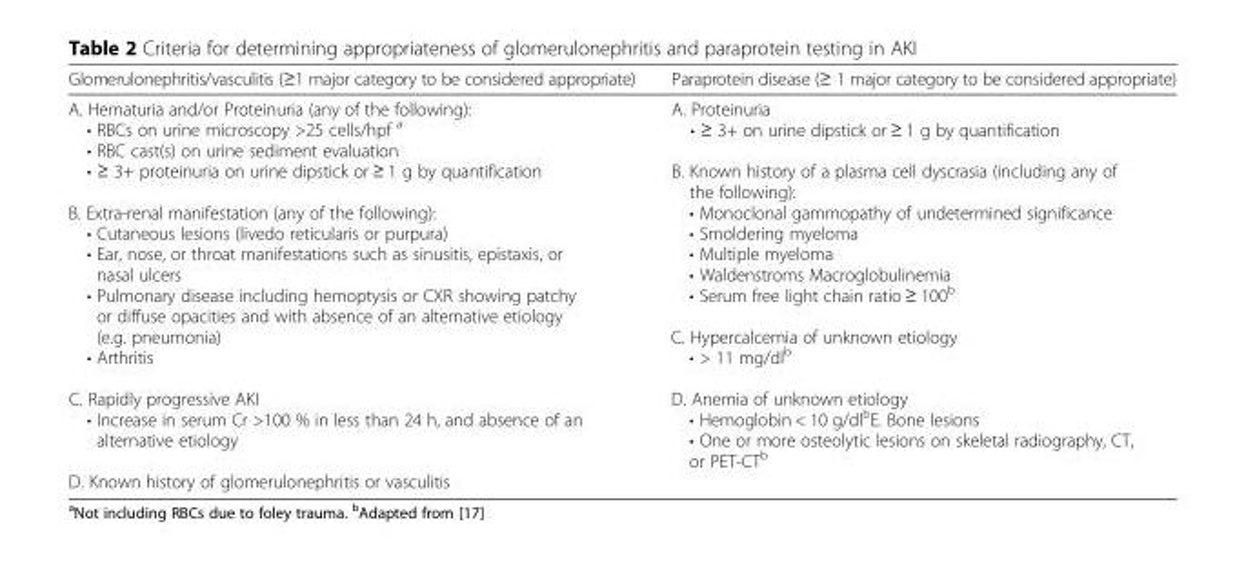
<table><thead><tr><td>Glomerulonephritis/vasculitis (≥1 major category to be considered appropriate)</td><td>Paraprotein disease (≥ 1 major category to be considered appropriate)</td></tr></thead><tbody><tr><td>A. Hematuria and/or Proteinuria (any of the following): • RBCs on urine microscopy &gt;25 cells/hpf <sup>a</sup> • RBC cast(s) on urine sediment evaluation • ≥ 3+ proteinuria on urine dipstick or ≥ 1 g by quantification B. Extra-renal manifestation (any of the following): • Cutaneous lesions (livedo reticularis or purpura) • Ear, nose, or throat manifestations such as sinusitis, epistaxis, or nasal ulcers • Pulmonary disease including hemoptysis or CXR showing patchy or diffuse opacities and with absence of an alternative etiology (e.g. pneumonia) • Arthritis C. Rapidly progressive AKI • Increase in serum Cr &gt;100 % in less than 24 h, and absence of an alternative etiology D. Known history of glomerulonephritis or vasculitis</td><td>A. Proteinuria • ≥ 3+ on urine dipstick or ≥ 1 g by quantification B. Known history of a plasma cell dyscrasia (including any of the following): • Monoclonal gammopathy of undetermined significance • Smoldering myeloma • Multiple myeloma • Waldenstroms Macroglobulinemia • Serum free light chain ratio ≥ 100<sup>b</sup> C. Hypercalcemia of unknown etiology • &gt; 11 mg/dl<sup>b</sup> D. Anemia of unknown etiology • Hemoglobin &lt; 10 g/dl<sup>b</sup>E. Bone lesions • One or more osteolytic lesions on skeletal radiography, CT, or PET-CT<sup>b</sup></td></tr></tbody></table>